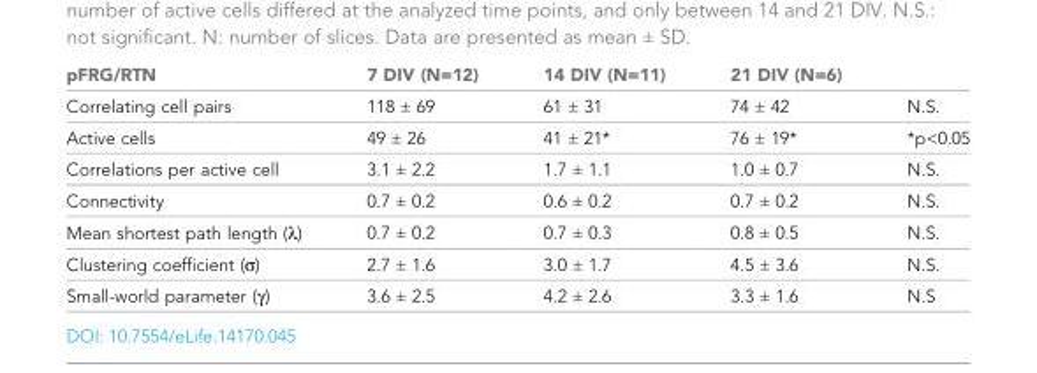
<table><thead><tr><td>pFRG/RTN</td><td>7 DIV (N=12)</td><td>14 DIV (N=11)</td><td>21 DIV (N=6)</td><td></td></tr></thead><tbody><tr><td>Correlating cell pairs</td><td>118 ± 69</td><td>61 ± 31</td><td>74 ± 42</td><td>N.S.</td></tr><tr><td>Active cells</td><td>49 ± 26</td><td>41 ± 21*</td><td>76 ± 19*</td><td>*p&lt;0.05</td></tr><tr><td>Correlations per active cell</td><td>3.1 ± 2.2</td><td>1.7 ± 1.1</td><td>1.0 ± 0.7</td><td>N.S.</td></tr><tr><td>Connectivity</td><td>0.7 ± 0.2</td><td>0.6 ± 0.2</td><td>0.7 ± 0.2</td><td>N.S.</td></tr><tr><td>Mean shortest path length (λ)</td><td>0.7 ± 0.2</td><td>0.7 ± 0.3</td><td>0.8 ± 0.5</td><td>N.S.</td></tr><tr><td>Clustering coefficient (σ)</td><td>2.7 ± 1.6</td><td>3.0 ± 1.7</td><td>4.5 ± 3.6</td><td>N.S.</td></tr><tr><td>Small-world parameter (γ)</td><td>3.6 ± 2.5</td><td>4.2 ± 2.6</td><td>3.3 ± 1.6</td><td>N.S</td></tr></tbody></table>